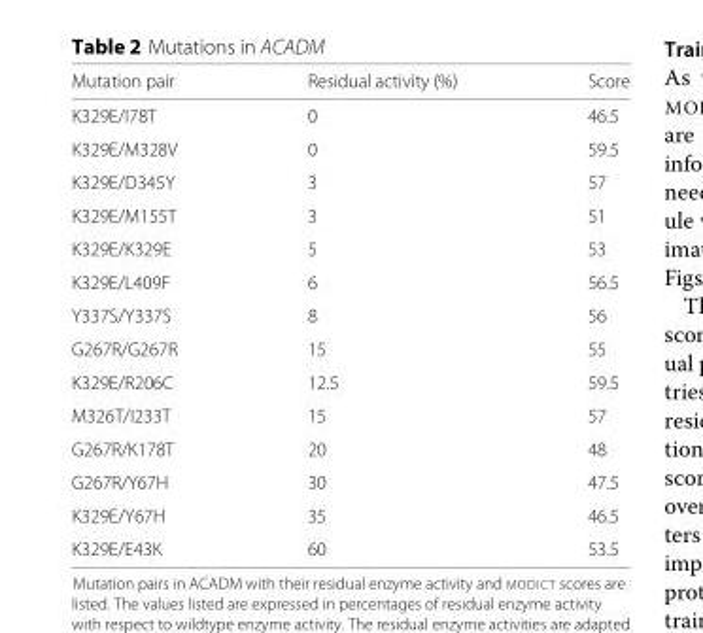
<table><thead><tr><td>Mutation pair</td><td>Residual activity (%)</td><td>Score</td></tr></thead><tbody><tr><td>K329E/I78T</td><td>0</td><td>46.5</td></tr><tr><td>K329E/M328V</td><td>0</td><td>59.5</td></tr><tr><td>K329E/D345Y</td><td>3</td><td>57</td></tr><tr><td>K329E/M155T</td><td>3</td><td>51</td></tr><tr><td>K329E/K329E</td><td>5</td><td>53</td></tr><tr><td>K329E/L409F</td><td>6</td><td>56.5</td></tr><tr><td>Y337S/Y337S</td><td>8</td><td>56</td></tr><tr><td>G267R/G267R</td><td>15</td><td>55</td></tr><tr><td>K329E/R206C</td><td>12.5</td><td>59.5</td></tr><tr><td>M326T/I233T</td><td>15</td><td>57</td></tr><tr><td>G267R/K178T</td><td>20</td><td>48</td></tr><tr><td>G267R/Y67H</td><td>30</td><td>47.5</td></tr><tr><td>K329E/Y67H</td><td>35</td><td>46.5</td></tr><tr><td>K329E/E43K</td><td>60</td><td>53.5</td></tr></tbody></table>